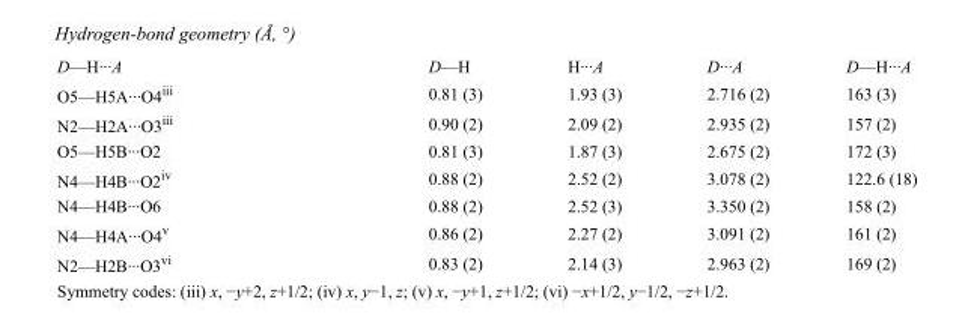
<table><tbody><tr><td>D—H···A</td><td>D—H</td><td>H···A</td><td>D···A</td><td>D—H···A</td></tr><tr><td>O5—H5A···O4<sup>iii</sup></td><td>0.81 (3)</td><td>1.93 (3)</td><td>2.716 (2)</td><td>163 (3)</td></tr><tr><td>N2—H2A···O3<sup>iii</sup></td><td>0.90 (2)</td><td>2.09 (2)</td><td>2.935 (2)</td><td>157 (2)</td></tr><tr><td>O5—H5B···O2</td><td>0.81 (3)</td><td>1.87 (3)</td><td>2.675 (2)</td><td>172 (3)</td></tr><tr><td>N4—H4B···O2<sup>iv</sup></td><td>0.88 (2)</td><td>2.52 (2)</td><td>3.078 (2)</td><td>122.6 (18)</td></tr><tr><td>N4—H4B···O6</td><td>0.88 (2)</td><td>2.52 (3)</td><td>3.350 (2)</td><td>158 (2)</td></tr><tr><td>N4—H4A···O4<sup>v</sup></td><td>0.86 (2)</td><td>2.27 (2)</td><td>3.091 (2)</td><td>161 (2)</td></tr><tr><td>N2—H2B···O3<sup>vi</sup></td><td>0.83 (2)</td><td>2.14 (3)</td><td>2.963 (2)</td><td>169 (2)</td></tr></tbody></table>